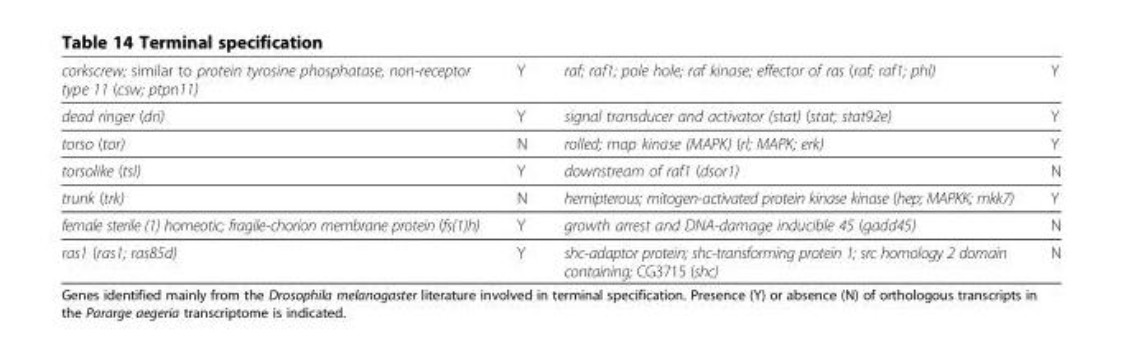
<table><tbody><tr><td>corkscrew; similar to protein tyrosine phosphatase, non-receptor type 11 (csw; ptpn11)</td><td>Y</td><td>raf; raf1; pole hole; raf kinase; effector of ras (raf; raf1; phl)</td><td>Y</td></tr><tr><td>dead ringer (dri)</td><td>Y</td><td>signal transducer and activator (stat) (stat; stat92e)</td><td>Y</td></tr><tr><td>torso (tor)</td><td>N</td><td>rolled; map kinase (MAPK) (rl; MAPK; erk)</td><td>Y</td></tr><tr><td>torsolike (tsl)</td><td>Y</td><td>downstream of raf1 (dsor1)</td><td>N</td></tr><tr><td>trunk (trk)</td><td>N</td><td>hemipterous; mitogen-activated protein kinase kinase (hep; MAPKK; mkk7)</td><td>Y</td></tr><tr><td>female sterile (1) homeotic; fragile-chorion membrane protein (fs(1)h)</td><td>Y</td><td>growth arrest and DNA-damage inducible 45 (gadd45)</td><td>N</td></tr><tr><td>ras1 (ras1; ras85d)</td><td>Y</td><td>shc-adaptor protein; shc-transforming protein 1; src homology 2 domain containing; CG3715 (shc)</td><td>N</td></tr></tbody></table>